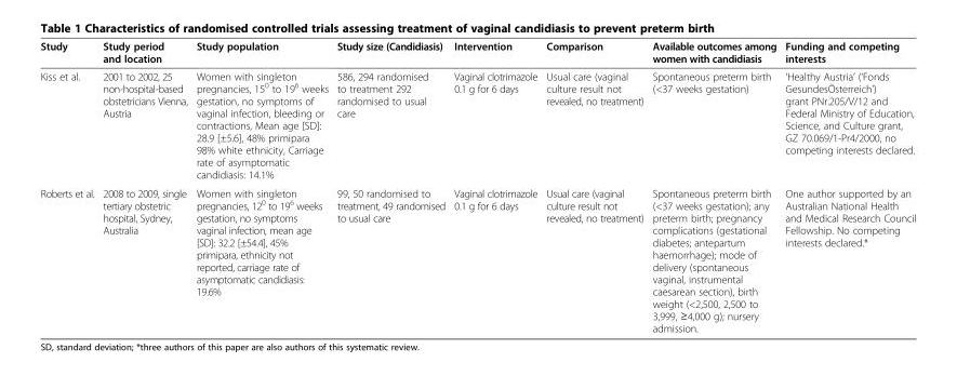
<table><thead><tr><td>Study</td><td>Study period and location</td><td>Study population</td><td>Study size (Candidiasis)</td><td>Intervention</td><td>Comparison</td><td>Available outcomes among women with candidiasis</td><td>Funding and competing interests</td></tr></thead><tbody><tr><td>Kiss et al.</td><td>2001 to 2002, 25 non-hospital-based obstetricians Vienna, Austria</td><td>Women with singleton pregnancies, 15<sup>0</sup> to 19<sup>6</sup> weeks gestation, no symptoms of vaginal infection, bleeding or contractions, Mean age [SD]: 28.9 [±5.6], 48% primipara 98% white ethnicity, Carriage rate of asymptomatic candidiasis: 14.1%</td><td>586, 294 randomised to treatment 292 randomised to usual care</td><td>Vaginal clotrimazole 0.1 g for 6 days</td><td>Usual care (vaginal culture result not revealed, no treatment)</td><td>Spontaneous preterm birth (&lt;37 weeks gestation)</td><td>‘Healthy Austria’ (‘Fonds GesundesÖsterreich’) grant PNr.205/V/12 and Federal Ministry of Education, Science, and Culture grant, GZ 70.069/1-Pr4/2000, no competing interests declared.</td></tr><tr><td>Roberts et al.</td><td>2008 to 2009, single tertiary obstetric hospital, Sydney, Australia</td><td>Women with singleton pregnancies, 12<sup>0</sup> to 19<sup>6</sup> weeks gestation, no symptoms vaginal infection, mean age [SD]: 32.2 [±54.4], 45% primipara, ethnicity not reported, carriage rate of asymptomatic candidiasis: 19.6%</td><td>99, 50 randomised to treatment, 49 randomised to usual care</td><td>Vaginal clotrimazole 0.1 g for 6 days</td><td>Usual care (vaginal culture result not revealed, no treatment)</td><td>Spontaneous preterm birth (&lt;37 weeks gestation); any preterm birth; pregnancy complications (gestational diabetes; antepartum haemorrhage); mode of delivery (spontaneous vaginal, instrumental caesarean section), birth weight (&lt;2,500, 2,500 to 3,999, ≥4,000 g); nursery admission.</td><td>One author supported by an Australian National Health and Medical Research Council Fellowship. No competing interests declared.*</td></tr></tbody></table>